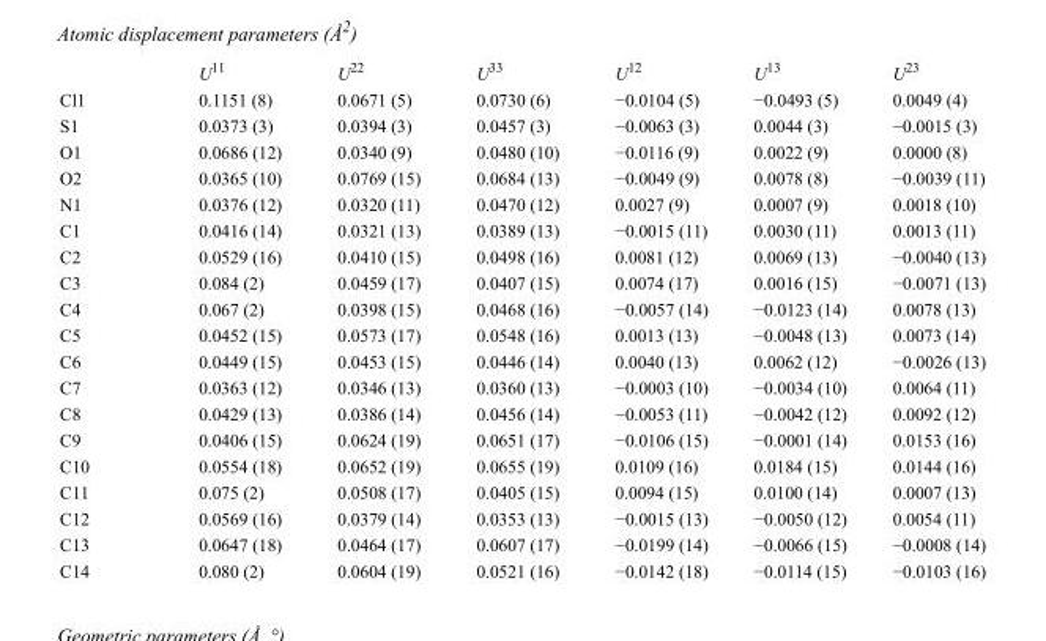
<table><thead><tr><td></td><td>U<sup>11</sup></td><td>U<sup>22</sup></td><td>U<sup>33</sup></td><td>U<sup>12</sup></td><td>U<sup>13</sup></td><td>U<sup>23</sup></td></tr></thead><tbody><tr><td>Cl1</td><td>0.1151 (8)</td><td>0.0671 (5)</td><td>0.0730 (6)</td><td>−0.0104 (5)</td><td>−0.0493 (5)</td><td>0.0049 (4)</td></tr><tr><td>S1</td><td>0.0373 (3)</td><td>0.0394 (3)</td><td>0.0457 (3)</td><td>−0.0063 (3)</td><td>0.0044 (3)</td><td>−0.0015 (3)</td></tr><tr><td>O1</td><td>0.0686 (12)</td><td>0.0340 (9)</td><td>0.0480 (10)</td><td>−0.0116 (9)</td><td>0.0022 (9)</td><td>0.0000 (8)</td></tr><tr><td>O2</td><td>0.0365 (10)</td><td>0.0769 (15)</td><td>0.0684 (13)</td><td>−0.0049 (9)</td><td>0.0078 (8)</td><td>−0.0039 (11)</td></tr><tr><td>N1</td><td>0.0376 (12)</td><td>0.0320 (11)</td><td>0.0470 (12)</td><td>0.0027 (9)</td><td>0.0007 (9)</td><td>0.0018 (10)</td></tr><tr><td>C1</td><td>0.0416 (14)</td><td>0.0321 (13)</td><td>0.0389 (13)</td><td>−0.0015 (11)</td><td>0.0030 (11)</td><td>0.0013 (11)</td></tr><tr><td>C2</td><td>0.0529 (16)</td><td>0.0410 (15)</td><td>0.0498 (16)</td><td>0.0081 (12)</td><td>0.0069 (13)</td><td>−0.0040 (13)</td></tr><tr><td>C3</td><td>0.084 (2)</td><td>0.0459 (17)</td><td>0.0407 (15)</td><td>0.0074 (17)</td><td>0.0016 (15)</td><td>−0.0071 (13)</td></tr><tr><td>C4</td><td>0.067 (2)</td><td>0.0398 (15)</td><td>0.0468 (16)</td><td>−0.0057 (14)</td><td>−0.0123 (14)</td><td>0.0078 (13)</td></tr><tr><td>C5</td><td>0.0452 (15)</td><td>0.0573 (17)</td><td>0.0548 (16)</td><td>0.0013 (13)</td><td>−0.0048 (13)</td><td>0.0073 (14)</td></tr><tr><td>C6</td><td>0.0449 (15)</td><td>0.0453 (15)</td><td>0.0446 (14)</td><td>0.0040 (13)</td><td>0.0062 (12)</td><td>−0.0026 (13)</td></tr><tr><td>C7</td><td>0.0363 (12)</td><td>0.0346 (13)</td><td>0.0360 (13)</td><td>−0.0003 (10)</td><td>−0.0034 (10)</td><td>0.0064 (11)</td></tr><tr><td>C8</td><td>0.0429 (13)</td><td>0.0386 (14)</td><td>0.0456 (14)</td><td>−0.0053 (11)</td><td>−0.0042 (12)</td><td>0.0092 (12)</td></tr><tr><td>C9</td><td>0.0406 (15)</td><td>0.0624 (19)</td><td>0.0651 (17)</td><td>−0.0106 (15)</td><td>−0.0001 (14)</td><td>0.0153 (16)</td></tr><tr><td>C10</td><td>0.0554 (18)</td><td>0.0652 (19)</td><td>0.0655 (19)</td><td>0.0109 (16)</td><td>0.0184 (15)</td><td>0.0144 (16)</td></tr><tr><td>C11</td><td>0.075 (2)</td><td>0.0508 (17)</td><td>0.0405 (15)</td><td>0.0094 (15)</td><td>0.0100 (14)</td><td>0.0007 (13)</td></tr><tr><td>C12</td><td>0.0569 (16)</td><td>0.0379 (14)</td><td>0.0353 (13)</td><td>−0.0015 (13)</td><td>−0.0050 (12)</td><td>0.0054 (11)</td></tr><tr><td>C13</td><td>0.0647 (18)</td><td>0.0464 (17)</td><td>0.0607 (17)</td><td>−0.0199 (14)</td><td>−0.0066 (15)</td><td>−0.0008 (14)</td></tr><tr><td>C14</td><td>0.080 (2)</td><td>0.0604 (19)</td><td>0.0521 (16)</td><td>−0.0142 (18)</td><td>−0.0114 (15)</td><td>−0.0103 (16)</td></tr></tbody></table>